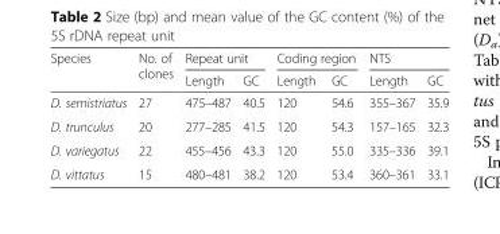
<table><thead><tr><td rowspan="2">Species</td><td rowspan="2">No. of clones</td><td colspan="2">Repeat unit</td><td colspan="2">Coding region</td><td colspan="2">NTS</td></tr><tr><td>Length</td><td>GC</td><td>Length</td><td>GC</td><td>Length</td><td>GC</td></tr></thead><tbody><tr><td>D. semistriatus</td><td>27</td><td>475–487</td><td>40.5</td><td>120</td><td>54.6</td><td>355–367</td><td>35.9</td></tr><tr><td>D. trunculus</td><td>20</td><td>277–285</td><td>41.5</td><td>120</td><td>54.3</td><td>157–165</td><td>32.3</td></tr><tr><td>D. variegatus</td><td>22</td><td>455–456</td><td>43.3</td><td>120</td><td>55.0</td><td>335–336</td><td>39.1</td></tr><tr><td>D. vittatus</td><td>15</td><td>480–481</td><td>38.2</td><td>120</td><td>53.4</td><td>360–361</td><td>33.1</td></tr></tbody></table>